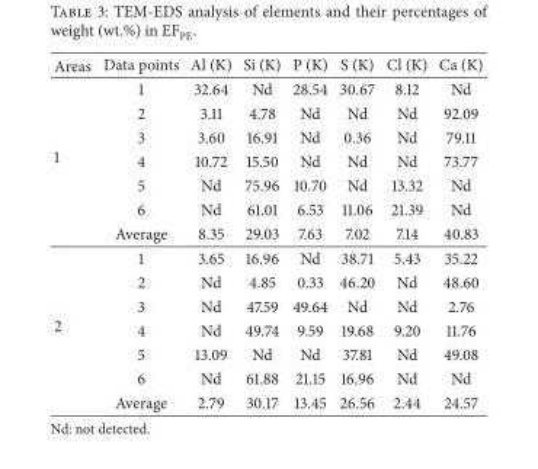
<table><thead><tr><td>Areas</td><td>Data points</td><td>Al (K)</td><td>Si (K)</td><td>P (K)</td><td>S (K)</td><td>Cl (K)</td><td>Ca (K)</td></tr></thead><tbody><tr><td rowspan="7">1</td><td>1</td><td>32.64</td><td>Nd</td><td>28.54</td><td>30.67</td><td>8.12</td><td>Nd</td></tr><tr><td>2</td><td>3.11</td><td>4.78</td><td>Nd</td><td>Nd</td><td>Nd</td><td>92.09</td></tr><tr><td>3</td><td>3.60</td><td>16.91</td><td>Nd</td><td>0.36</td><td>Nd</td><td>79.11</td></tr><tr><td>4</td><td>10.72</td><td>15.50</td><td>Nd</td><td>Nd</td><td>Nd</td><td>73.77</td></tr><tr><td>5</td><td>Nd</td><td>75.96</td><td>10.70</td><td>Nd</td><td>13.32</td><td>Nd</td></tr><tr><td>6</td><td>Nd</td><td>61.01</td><td>6.53</td><td>11.06</td><td>21.39</td><td>Nd</td></tr><tr><td>Average</td><td>8.35</td><td>29.03</td><td>7.63</td><td>7.02</td><td>7.14</td><td>40.83</td></tr><tr><td rowspan="7">2</td><td>1</td><td>3.65</td><td>16.96</td><td>Nd</td><td>38.71</td><td>5.43</td><td>35.22</td></tr><tr><td>2</td><td>Nd</td><td>4.85</td><td>0.33</td><td>46.20</td><td>Nd</td><td>48.60</td></tr><tr><td>3</td><td>Nd</td><td>47.59</td><td>49.64</td><td>Nd</td><td>Nd</td><td>2.76</td></tr><tr><td>4</td><td>Nd</td><td>49.74</td><td>9.59</td><td>19.68</td><td>9.20</td><td>11.76</td></tr><tr><td>5</td><td>13.09</td><td>Nd</td><td>Nd</td><td>37.81</td><td>Nd</td><td>49.08</td></tr><tr><td>6</td><td>Nd</td><td>61.88</td><td>21.15</td><td>16.96</td><td>Nd</td><td>Nd</td></tr><tr><td>Average</td><td>2.79</td><td>30.17</td><td>13.45</td><td>26.56</td><td>2.44</td><td>24.57</td></tr></tbody></table>